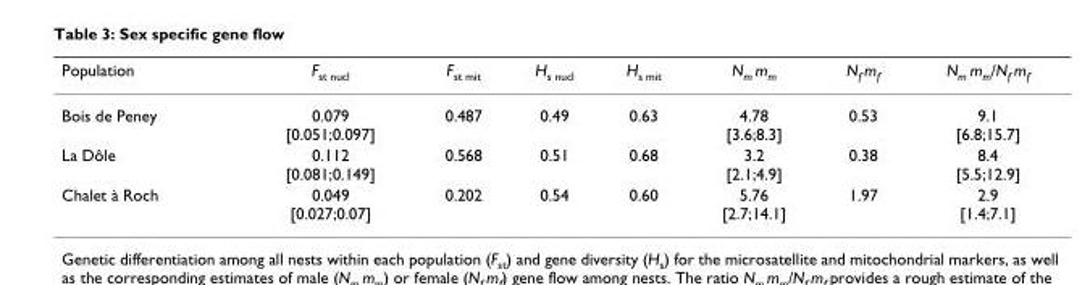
<table><thead><tr><td>Population</td><td>F<sub>st nucl</sub></td><td>F<sub>st mit</sub></td><td>H<sub>s nucl</sub></td><td>H<sub>s mit</sub></td><td>N<sub>m</sub> m<sub>m</sub></td><td>N<sub>f</sub> m<sub>f</sub></td><td>N<sub>m</sub> m<sub>m</sub>/N<sub>f</sub> m<sub>f</sub></td></tr></thead><tbody><tr><td>Bois de Peney</td><td>0.079 [0.051;0.097]</td><td>0.487</td><td>0.49</td><td>0.63</td><td>4.78 [3.6;8.3]</td><td>0.53</td><td>9.1 [6.8;15.7]</td></tr><tr><td>La Dôle</td><td>0.112 [0.081;0.149]</td><td>0.568</td><td>0.51</td><td>0.68</td><td>3.2 [2.1;4.9]</td><td>0.38</td><td>8.4 [5.5;12.9]</td></tr><tr><td>Chalet à Roch</td><td>0.049 [0.027;0.07]</td><td>0.202</td><td>0.54</td><td>0.60</td><td>5.76 [2.7;14.1]</td><td>1.97</td><td>2.9 [1.4;7.1]</td></tr></tbody></table>